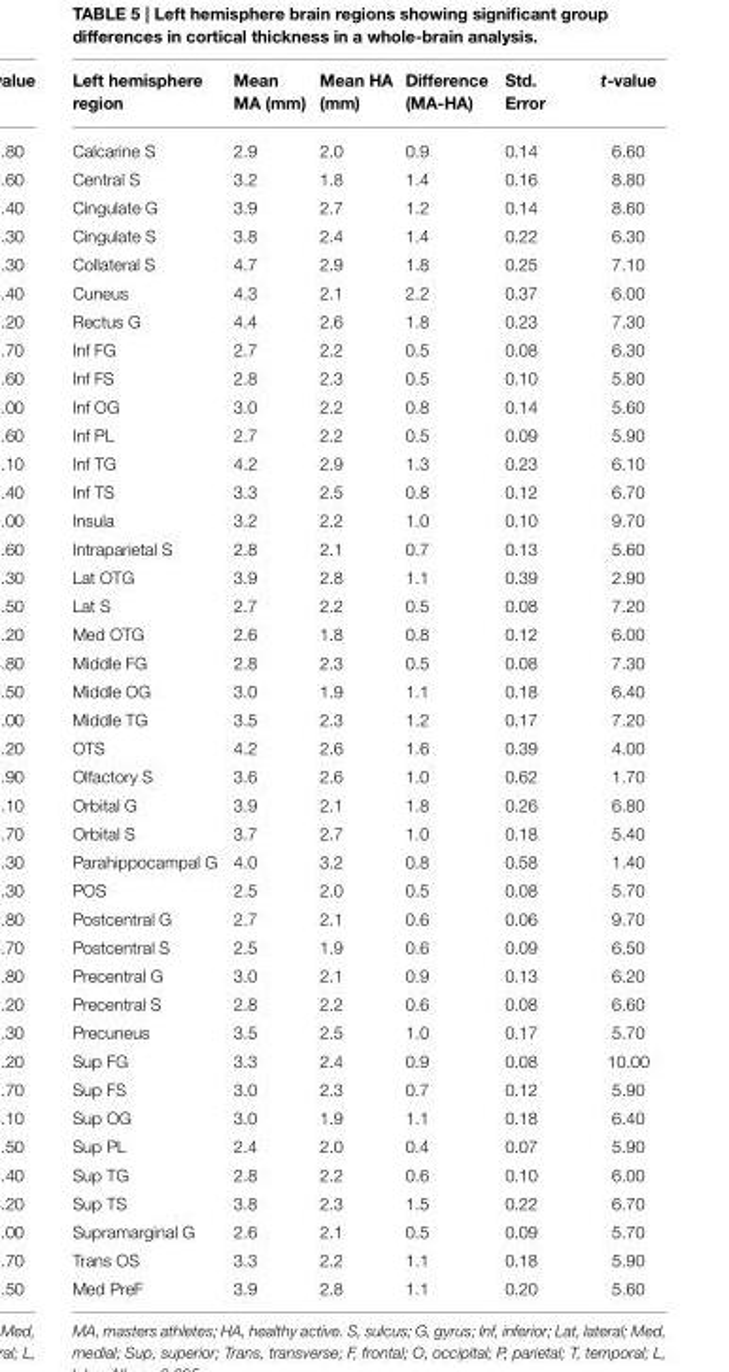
<table><thead><tr><td>Left hemisphere region</td><td>Mean MA (mm)</td><td>Mean HA (mm)</td><td>Difference (MA-HA)</td><td>Std. Error</td><td>t-value</td></tr></thead><tbody><tr><td>Calcarine S</td><td>2.9</td><td>2.0</td><td>0.9</td><td>0.14</td><td>6.60</td></tr><tr><td>Central S</td><td>3.2</td><td>1.8</td><td>1.4</td><td>0.16</td><td>8.80</td></tr><tr><td>Cingulate G</td><td>3.9</td><td>2.7</td><td>1.2</td><td>0.14</td><td>8.60</td></tr><tr><td>Cingulate S</td><td>3.8</td><td>2.4</td><td>1.4</td><td>0.22</td><td>6.30</td></tr><tr><td>Collateral S</td><td>4.7</td><td>2.9</td><td>1.8</td><td>0.25</td><td>7.10</td></tr><tr><td>Cuneus</td><td>4.3</td><td>2.1</td><td>2.2</td><td>0.37</td><td>6.00</td></tr><tr><td>Rectus G</td><td>4.4</td><td>2.6</td><td>1.8</td><td>0.23</td><td>7.30</td></tr><tr><td>Inf FG</td><td>2.7</td><td>2.2</td><td>0.5</td><td>0.08</td><td>6.30</td></tr><tr><td>Inf FS</td><td>2.8</td><td>2.3</td><td>0.5</td><td>0.10</td><td>5.80</td></tr><tr><td>Inf OG</td><td>3.0</td><td>2.2</td><td>0.8</td><td>0.14</td><td>5.60</td></tr><tr><td>Inf PL</td><td>2.7</td><td>2.2</td><td>0.5</td><td>0.09</td><td>5.90</td></tr><tr><td>Inf TG</td><td>4.2</td><td>2.9</td><td>1.3</td><td>0.23</td><td>6.10</td></tr><tr><td>Inf TS</td><td>3.3</td><td>2.5</td><td>0.8</td><td>0.12</td><td>6.70</td></tr><tr><td>Insula</td><td>3.2</td><td>2.2</td><td>1.0</td><td>0.10</td><td>9.70</td></tr><tr><td>Intraparietal S</td><td>2.8</td><td>2.1</td><td>0.7</td><td>0.13</td><td>5.60</td></tr><tr><td>Lat OTG</td><td>3.9</td><td>2.8</td><td>1.1</td><td>0.39</td><td>2.90</td></tr><tr><td>Lat S</td><td>2.7</td><td>2.2</td><td>0.5</td><td>0.08</td><td>7.20</td></tr><tr><td>Med OTG</td><td>2.6</td><td>1.8</td><td>0.8</td><td>0.12</td><td>6.00</td></tr><tr><td>Middle FG</td><td>2.8</td><td>2.3</td><td>0.5</td><td>0.08</td><td>7.30</td></tr><tr><td>Middle OG</td><td>3.0</td><td>1.9</td><td>1.1</td><td>0.18</td><td>6.40</td></tr><tr><td>Middle TG</td><td>3.5</td><td>2.3</td><td>1.2</td><td>0.17</td><td>7.20</td></tr><tr><td>OTS</td><td>4.2</td><td>2.6</td><td>1.6</td><td>0.39</td><td>4.00</td></tr><tr><td>Olfactory S</td><td>3.6</td><td>2.6</td><td>1.0</td><td>0.62</td><td>1.70</td></tr><tr><td>Orbital G</td><td>3.9</td><td>2.1</td><td>1.8</td><td>0.26</td><td>6.80</td></tr><tr><td>Orbital S</td><td>3.7</td><td>2.7</td><td>1.0</td><td>0.18</td><td>5.40</td></tr><tr><td>Parahippocampal G</td><td>4.0</td><td>3.2</td><td>0.8</td><td>0.58</td><td>1.40</td></tr><tr><td>POS</td><td>2.5</td><td>2.0</td><td>0.5</td><td>0.08</td><td>5.70</td></tr><tr><td>Postcentral G</td><td>2.7</td><td>2.1</td><td>0.6</td><td>0.06</td><td>9.70</td></tr><tr><td>Postcentral S</td><td>2.5</td><td>1.9</td><td>0.6</td><td>0.09</td><td>6.50</td></tr><tr><td>Precentral G</td><td>3.0</td><td>2.1</td><td>0.9</td><td>0.13</td><td>6.20</td></tr><tr><td>Precentral S</td><td>2.8</td><td>2.2</td><td>0.6</td><td>0.08</td><td>6.60</td></tr><tr><td>Precuneus</td><td>3.5</td><td>2.5</td><td>1.0</td><td>0.17</td><td>5.70</td></tr><tr><td>Sup FG</td><td>3.3</td><td>2.4</td><td>0.9</td><td>0.08</td><td>10.00</td></tr><tr><td>Sup FS</td><td>3.0</td><td>2.3</td><td>0.7</td><td>0.12</td><td>5.90</td></tr><tr><td>Sup OG</td><td>3.0</td><td>1.9</td><td>1.1</td><td>0.18</td><td>6.40</td></tr><tr><td>Sup PL</td><td>2.4</td><td>2.0</td><td>0.4</td><td>0.07</td><td>5.90</td></tr><tr><td>Sup TG</td><td>2.8</td><td>2.2</td><td>0.6</td><td>0.10</td><td>6.00</td></tr><tr><td>Sup TS</td><td>3.8</td><td>2.3</td><td>1.5</td><td>0.22</td><td>6.70</td></tr><tr><td>Supramarginal G</td><td>2.6</td><td>2.1</td><td>0.5</td><td>0.09</td><td>5.70</td></tr><tr><td>Trans OS</td><td>3.3</td><td>2.2</td><td>1.1</td><td>0.18</td><td>5.90</td></tr><tr><td>Med PreF</td><td>3.9</td><td>2.8</td><td>1.1</td><td>0.20</td><td>5.60</td></tr></tbody></table>